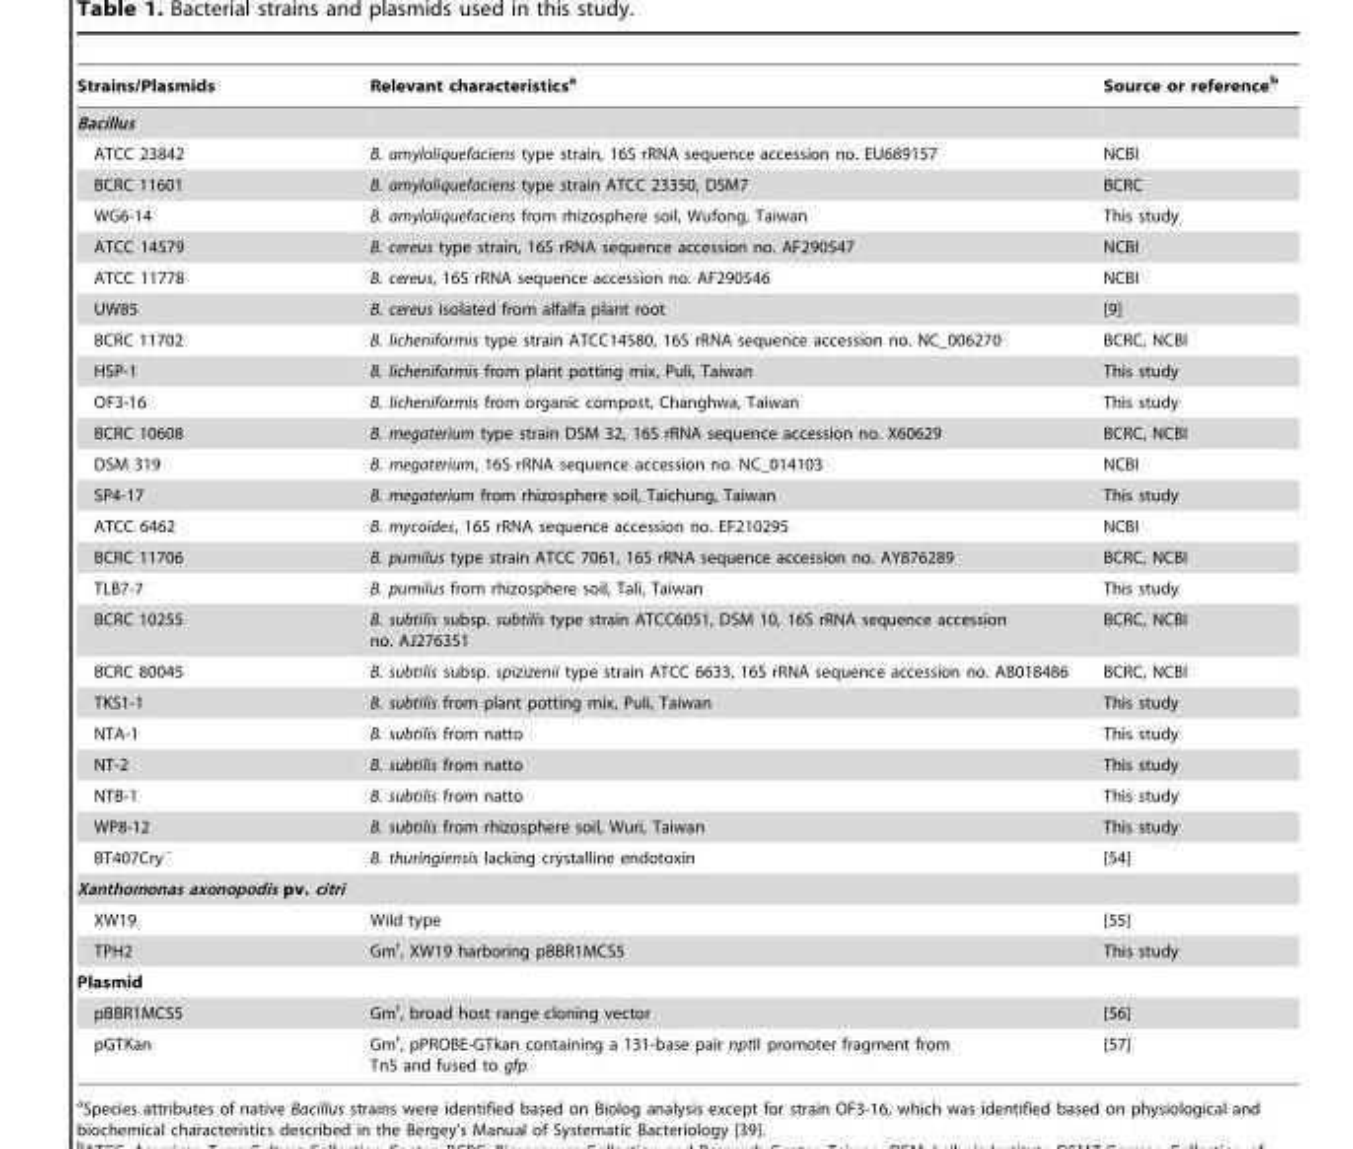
<table><thead><tr><td>Strains/Plasmids</td><td>Relevant characteristics<sup>a</sup></td><td>Source or reference<sup>b</sup></td></tr></thead><tbody><tr><td colspan="3">Bacillus</td></tr><tr><td>ATCC 23842</td><td>B. amyloliquefaciens type strain, 16S rRNA sequence accession no. EU689157</td><td>NCBI</td></tr><tr><td>BCRC 11601</td><td>B. amyloliquefaciens type strain ATCC 23350, DSM7</td><td>BCRC</td></tr><tr><td>WG6-14</td><td>B. amyloliquefaciens from rhizosphere soil, Wufong, Taiwan</td><td>This study</td></tr><tr><td>ATCC 14579</td><td>B. cereus type strain, 16S rRNA sequence accession no. AF290547</td><td>NCBI</td></tr><tr><td>ATCC 11778</td><td>B. cereus, 16S rRNA sequence accession no. AF290546</td><td>NCBI</td></tr><tr><td>UW85</td><td>B. cereus isolated from alfalfa plant root</td><td>[9]</td></tr><tr><td>BCRC 11702</td><td>B. licheniformis type strain ATCC14580, 16S rRNA sequence accession no. NC_006270</td><td>BCRC, NCBI</td></tr><tr><td>HSP-1</td><td>B. licheniformis from plant potting mix, Puli, Taiwan</td><td>This study</td></tr><tr><td>OF3-16</td><td>B. licheniformis from organic compost, Changhwa, Taiwan</td><td>This study</td></tr><tr><td>BCRC 10608</td><td>B. megaterium type strain DSM 32, 16S rRNA sequence accession no. X60629</td><td>BCRC, NCBI</td></tr><tr><td>DSM 319</td><td>B. megaterium, 16S rRNA sequence accession no. NC_014103</td><td>NCBI</td></tr><tr><td>SP4-17</td><td>B. megaterium from rhizosphere soil, Taichung, Taiwan</td><td>This study</td></tr><tr><td>ATCC 6462</td><td>B. mycoides, 16S rRNA sequence accession no. EF210295</td><td>NCBI</td></tr><tr><td>BCRC 11706</td><td>B. pumilus type strain ATCC 7061, 16S rRNA sequence accession no. AY876289</td><td>BCRC, NCBI</td></tr><tr><td>TLB7-7</td><td>B. pumilus from rhizosphere soil, Tali, Taiwan</td><td>This study</td></tr><tr><td>BCRC 10255</td><td>B. subtilis subsp. subtilis type strain ATCC6051, DSM 10, 16S rRNA sequence accession no. AJ276351</td><td>BCRC, NCBI</td></tr><tr><td>BCRC 80045</td><td>B. subtilis subsp. spizizenii type strain ATCC 6633, 16S rRNA sequence accession no. AB018486</td><td>BCRC, NCBI</td></tr><tr><td>TKS1-1</td><td>B. subtilis from plant potting mix, Puli, Taiwan</td><td>This study</td></tr><tr><td>NTA-1</td><td>B. subtilis from natto</td><td>This study</td></tr><tr><td>NT-2</td><td>B. subtilis from natto</td><td>This study</td></tr><tr><td>NTB-1</td><td>B. subtilis from natto</td><td>This study</td></tr><tr><td>WP8-12</td><td>B. subtilis from rhizosphere soil, Wuri, Taiwan</td><td>This study</td></tr><tr><td>BT407Cry<sup>−</sup></td><td>B. thuringiensis lacking crystalline endotoxin</td><td>[54]</td></tr><tr><td colspan="3">Xanthomonas axonopodis pv. citri</td></tr><tr><td>XW19</td><td>Wild type</td><td>[55]</td></tr><tr><td>TPH2</td><td>Gm<sup>r</sup>, XW19 harboring pBBR1MCS5</td><td>This study</td></tr><tr><td colspan="3">Plasmid</td></tr><tr><td>pBBR1MCS5</td><td>Gm<sup>r</sup>, broad host range cloning vector</td><td>[56]</td></tr><tr><td>pGTKan</td><td>Gm<sup>r</sup>, pPROBE-GTkan containing a 131-base pair nptII promoter fragment from Tn5 and fused to gfp</td><td>[57]</td></tr></tbody></table>